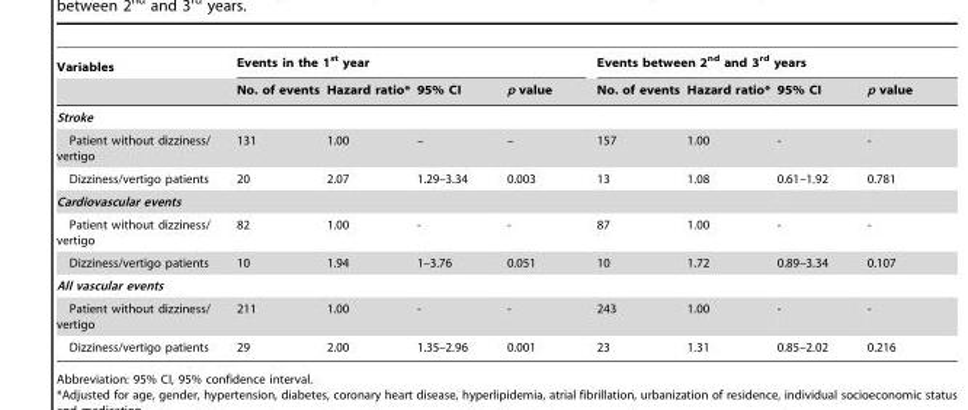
<table><thead><tr><td rowspan="2">Variables</td><td colspan="4">Events in the 1<sup>st</sup> year</td><td colspan="4">Events between 2<sup>nd</sup> and 3<sup>rd</sup> years</td></tr><tr><td>No. of events</td><td>Hazard ratio*</td><td>95% CI</td><td>p value</td><td>No. of events</td><td>Hazard ratio*</td><td>95% CI</td><td>p value</td></tr></thead><tbody><tr><td colspan="9">Stroke</td></tr><tr><td>Patient without dizziness/ vertigo</td><td>131</td><td>1.00</td><td>–</td><td>–</td><td>157</td><td>1.00</td><td>-</td><td>-</td></tr><tr><td>Dizziness/vertigo patients</td><td>20</td><td>2.07</td><td>1.29–3.34</td><td>0.003</td><td>13</td><td>1.08</td><td>0.61–1.92</td><td>0.781</td></tr><tr><td colspan="9">Cardiovascular events</td></tr><tr><td>Patient without dizziness/ vertigo</td><td>82</td><td>1.00</td><td>-</td><td>-</td><td>87</td><td>1.00</td><td>-</td><td>-</td></tr><tr><td>Dizziness/vertigo patients</td><td>10</td><td>1.94</td><td>1–3.76</td><td>0.051</td><td>10</td><td>1.72</td><td>0.89–3.34</td><td>0.107</td></tr><tr><td colspan="9">All vascular events</td></tr><tr><td>Patient without dizziness/ vertigo</td><td>211</td><td>1.00</td><td>-</td><td>-</td><td>243</td><td>1.00</td><td>-</td><td>-</td></tr><tr><td>Dizziness/vertigo patients</td><td>29</td><td>2.00</td><td>1.35–2.96</td><td>0.001</td><td>23</td><td>1.31</td><td>0.85–2.02</td><td>0.216</td></tr></tbody></table>